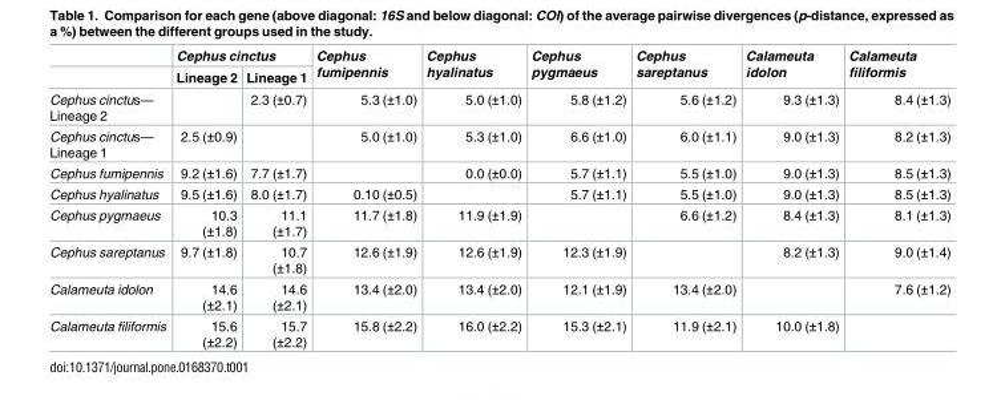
<table><thead><tr><td rowspan="2"></td><td colspan="2">Cephus cinctus</td><td rowspan="2">Cephus fumipennis</td><td rowspan="2">Cephus hyalinatus</td><td rowspan="2">Cephus pygmaeus</td><td rowspan="2">Cephus sareptanus</td><td rowspan="2">Calameuta idolon</td><td rowspan="2">Calameuta filiformis</td></tr><tr><td>Lineage 2</td><td>Lineage 1</td></tr></thead><tbody><tr><td>Cephus cinctus— Lineage 2</td><td></td><td>2.3 (±0.7)</td><td>5.3 (±1.0)</td><td>5.0 (±1.0)</td><td>5.8 (±1.2)</td><td>5.6 (±1.2)</td><td>9.3 (±1.3)</td><td>8.4 (±1.3)</td></tr><tr><td>Cephus cinctus— Lineage 1</td><td>2.5 (±0.9)</td><td></td><td>5.0 (±1.0)</td><td>5.3 (±1.0)</td><td>6.6 (±1.0)</td><td>6.0 (±1.1)</td><td>9.0 (±1.3)</td><td>8.2 (±1.3)</td></tr><tr><td>Cephus fumipennis</td><td>9.2 (±1.6)</td><td>7.7 (±1.7)</td><td></td><td>0.0 (±0.0)</td><td>5.7 (±1.1)</td><td>5.5 (±1.0)</td><td>9.0 (±1.3)</td><td>8.5 (±1.3)</td></tr><tr><td>Cephus hyalinatus</td><td>9.5 (±1.6)</td><td>8.0 (±1.7)</td><td>0.10 (±0.5)</td><td></td><td>5.7 (±1.1)</td><td>5.5 (±1.0)</td><td>9.0 (±1.3)</td><td>8.5 (±1.3)</td></tr><tr><td>Cephus pygmaeus</td><td>10.3 (±1.8)</td><td>11.1 (±1.7)</td><td>11.7 (±1.8)</td><td>11.9 (±1.9)</td><td></td><td>6.6 (±1.2)</td><td>8.4 (±1.3)</td><td>8.1 (±1.3)</td></tr><tr><td>Cephus sareptanus</td><td>9.7 (±1.8)</td><td>10.7 (±1.8)</td><td>12.6 (±1.9)</td><td>12.6 (±1.9)</td><td>12.3 (±1.9)</td><td></td><td>8.2 (±1.3)</td><td>9.0 (±1.4)</td></tr><tr><td>Calameuta idolon</td><td>14.6 (±2.1)</td><td>14.6 (±2.1)</td><td>13.4 (±2.0)</td><td>13.4 (±2.0)</td><td>12.1 (±1.9)</td><td>13.4 (±2.0)</td><td></td><td>7.6 (±1.2)</td></tr><tr><td>Calameuta filiformis</td><td>15.6 (±2.2)</td><td>15.7 (±2.2)</td><td>15.8 (±2.2)</td><td>16.0 (±2.2)</td><td>15.3 (±2.1)</td><td>11.9 (±2.1)</td><td>10.0 (±1.8)</td><td></td></tr></tbody></table>